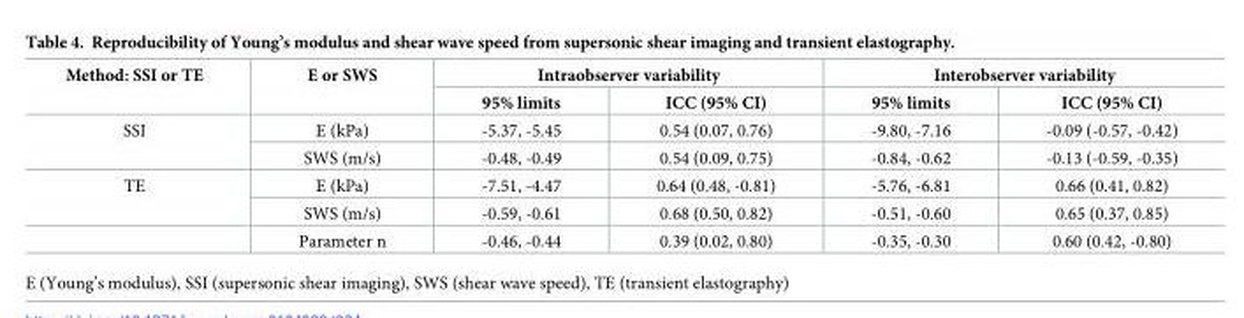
<table><thead><tr><td rowspan="2">Method: SSI or TE</td><td rowspan="2">E or SWS</td><td colspan="2">Intraobserver variability</td><td colspan="2">Interobserver variability</td></tr><tr><td>95% limits</td><td>ICC (95% CI)</td><td>95% limits</td><td>ICC (95% CI)</td></tr></thead><tbody><tr><td rowspan="2">SSI</td><td>E (kPa)</td><td>-5.37, -5.45</td><td>0.54 (0.07, 0.76)</td><td>-9.80, -7.16</td><td>-0.09 (-0.57, -0.42)</td></tr><tr><td>SWS (m/s)</td><td>-0.48, -0.49</td><td>0.54 (0.09, 0.75)</td><td>-0.84, -0.62</td><td>-0.13 (-0.59, -0.35)</td></tr><tr><td rowspan="3">TE</td><td>E (kPa)</td><td>-7.51, -4.47</td><td>0.64 (0.48, -0.81)</td><td>-5.76, -6.81</td><td>0.66 (0.41, 0.82)</td></tr><tr><td>SWS (m/s)</td><td>-0.59, -0.61</td><td>0.68 (0.50, 0.82)</td><td>-0.51, -0.60</td><td>0.65 (0.37, 0.85)</td></tr><tr><td>Parameter n</td><td>-0.46, -0.44</td><td>0.39 (0.02, 0.80)</td><td>-0.35, -0.30</td><td>0.60 (0.42, -0.80)</td></tr></tbody></table>